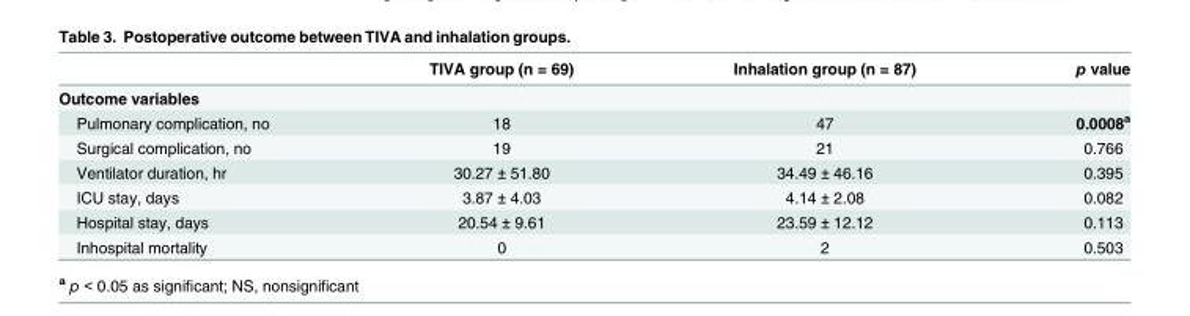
<table><thead><tr><td></td><td>TIVA group (n = 69)</td><td>Inhalation group (n = 87)</td><td>p value</td></tr></thead><tbody><tr><td colspan="4">Outcome variables</td></tr><tr><td>Pulmonary complication, no</td><td>18</td><td>47</td><td>0.0008<sup>a</sup></td></tr><tr><td>Surgical complication, no</td><td>19</td><td>21</td><td>0.766</td></tr><tr><td>Ventilator duration, hr</td><td>30.27 ± 51.80</td><td>34.49 ± 46.16</td><td>0.395</td></tr><tr><td>ICU stay, days</td><td>3.87 ± 4.03</td><td>4.14 ± 2.08</td><td>0.082</td></tr><tr><td>Hospital stay, days</td><td>20.54 ± 9.61</td><td>23.59 ± 12.12</td><td>0.113</td></tr><tr><td>Inhospital mortality</td><td>0</td><td>2</td><td>0.503</td></tr></tbody></table>